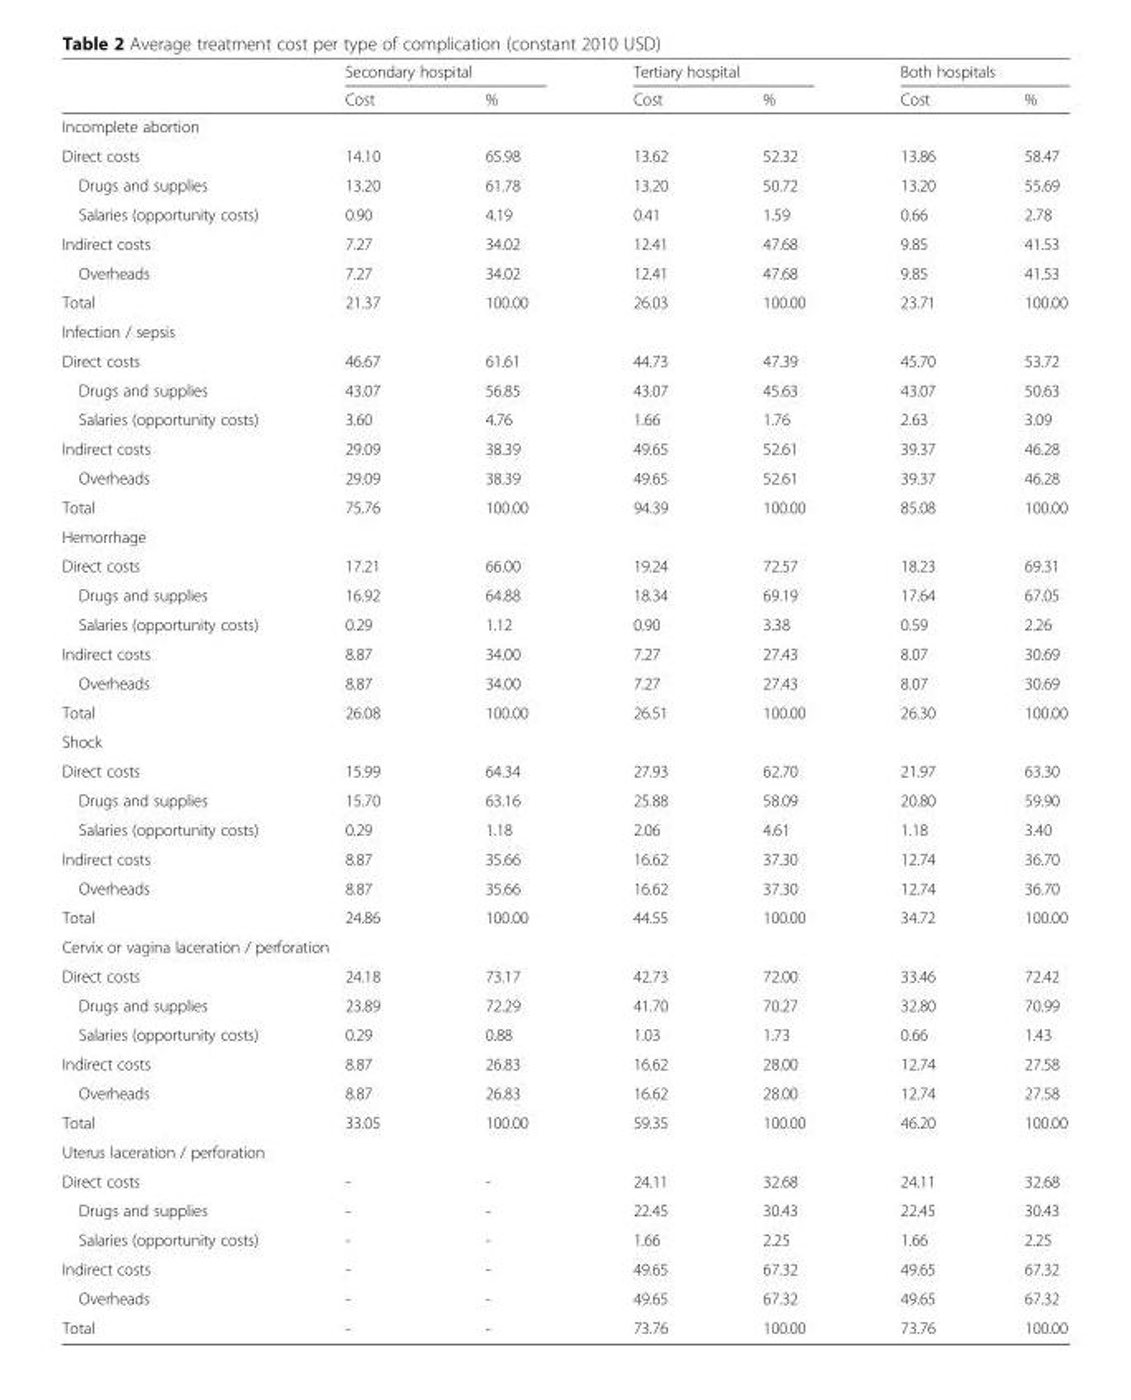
<table><thead><tr><td rowspan="2"></td><td colspan="2">Secondary hospital</td><td colspan="2">Tertiary hospital</td><td colspan="2">Both hospitals</td></tr><tr><td>Cost</td><td>%</td><td>Cost</td><td>%</td><td>Cost</td><td>%</td></tr></thead><tbody><tr><td colspan="7">Incomplete abortion</td></tr><tr><td>Direct costs</td><td>14.10</td><td>65.98</td><td>13.62</td><td>52.32</td><td>13.86</td><td>58.47</td></tr><tr><td>Drugs and supplies</td><td>13.20</td><td>61.78</td><td>13.20</td><td>50.72</td><td>13.20</td><td>55.69</td></tr><tr><td>Salaries (opportunity costs)</td><td>0.90</td><td>4.19</td><td>0.41</td><td>1.59</td><td>0.66</td><td>2.78</td></tr><tr><td>Indirect costs</td><td>7.27</td><td>34.02</td><td>12.41</td><td>47.68</td><td>9.85</td><td>41.53</td></tr><tr><td>Overheads</td><td>7.27</td><td>34.02</td><td>12.41</td><td>47.68</td><td>9.85</td><td>41.53</td></tr><tr><td>Total</td><td>21.37</td><td>100.00</td><td>26.03</td><td>100.00</td><td>23.71</td><td>100.00</td></tr><tr><td colspan="7">Infection / sepsis</td></tr><tr><td>Direct costs</td><td>46.67</td><td>61.61</td><td>44.73</td><td>47.39</td><td>45.70</td><td>53.72</td></tr><tr><td>Drugs and supplies</td><td>43.07</td><td>56.85</td><td>43.07</td><td>45.63</td><td>43.07</td><td>50.63</td></tr><tr><td>Salaries (opportunity costs)</td><td>3.60</td><td>4.76</td><td>1.66</td><td>1.76</td><td>2.63</td><td>3.09</td></tr><tr><td>Indirect costs</td><td>29.09</td><td>38.39</td><td>49.65</td><td>52.61</td><td>39.37</td><td>46.28</td></tr><tr><td>Overheads</td><td>29.09</td><td>38.39</td><td>49.65</td><td>52.61</td><td>39.37</td><td>46.28</td></tr><tr><td>Total</td><td>75.76</td><td>100.00</td><td>94.39</td><td>100.00</td><td>85.08</td><td>100.00</td></tr><tr><td colspan="7">Hemorrhage</td></tr><tr><td>Direct costs</td><td>17.21</td><td>66.00</td><td>19.24</td><td>72.57</td><td>18.23</td><td>69.31</td></tr><tr><td>Drugs and supplies</td><td>16.92</td><td>64.88</td><td>18.34</td><td>69.19</td><td>17.64</td><td>67.05</td></tr><tr><td>Salaries (opportunity costs)</td><td>0.29</td><td>1.12</td><td>0.90</td><td>3.38</td><td>0.59</td><td>2.26</td></tr><tr><td>Indirect costs</td><td>8.87</td><td>34.00</td><td>7.27</td><td>27.43</td><td>8.07</td><td>30.69</td></tr><tr><td>Overheads</td><td>8.87</td><td>34.00</td><td>7.27</td><td>27.43</td><td>8.07</td><td>30.69</td></tr><tr><td>Total</td><td>26.08</td><td>100.00</td><td>26.51</td><td>100.00</td><td>26.30</td><td>100.00</td></tr><tr><td colspan="7">Shock</td></tr><tr><td>Direct costs</td><td>15.99</td><td>64.34</td><td>27.93</td><td>62.70</td><td>21.97</td><td>63.30</td></tr><tr><td>Drugs and supplies</td><td>15.70</td><td>63.16</td><td>25.88</td><td>58.09</td><td>20.80</td><td>59.90</td></tr><tr><td>Salaries (opportunity costs)</td><td>0.29</td><td>1.18</td><td>2.06</td><td>4.61</td><td>1.18</td><td>3.40</td></tr><tr><td>Indirect costs</td><td>8.87</td><td>35.66</td><td>16.62</td><td>37.30</td><td>12.74</td><td>36.70</td></tr><tr><td>Overheads</td><td>8.87</td><td>35.66</td><td>16.62</td><td>37.30</td><td>12.74</td><td>36.70</td></tr><tr><td>Total</td><td>24.86</td><td>100.00</td><td>44.55</td><td>100.00</td><td>34.72</td><td>100.00</td></tr><tr><td colspan="7">Cervix or vagina laceration / perforation</td></tr><tr><td>Direct costs</td><td>24.18</td><td>73.17</td><td>42.73</td><td>72.00</td><td>33.46</td><td>72.42</td></tr><tr><td>Drugs and supplies</td><td>23.89</td><td>72.29</td><td>41.70</td><td>70.27</td><td>32.80</td><td>70.99</td></tr><tr><td>Salaries (opportunity costs)</td><td>0.29</td><td>0.88</td><td>1.03</td><td>1.73</td><td>0.66</td><td>1.43</td></tr><tr><td>Indirect costs</td><td>8.87</td><td>26.83</td><td>16.62</td><td>28.00</td><td>12.74</td><td>27.58</td></tr><tr><td>Overheads</td><td>8.87</td><td>26.83</td><td>16.62</td><td>28.00</td><td>12.74</td><td>27.58</td></tr><tr><td>Total</td><td>33.05</td><td>100.00</td><td>59.35</td><td>100.00</td><td>46.20</td><td>100.00</td></tr><tr><td colspan="7">Uterus laceration / perforation</td></tr><tr><td>Direct costs</td><td>-</td><td>-</td><td>24.11</td><td>32.68</td><td>24.11</td><td>32.68</td></tr><tr><td>Drugs and supplies</td><td>-</td><td>-</td><td>22.45</td><td>30.43</td><td>22.45</td><td>30.43</td></tr><tr><td>Salaries (opportunity costs)</td><td>-</td><td>-</td><td>1.66</td><td>2.25</td><td>1.66</td><td>2.25</td></tr><tr><td>Indirect costs</td><td>-</td><td>-</td><td>49.65</td><td>67.32</td><td>49.65</td><td>67.32</td></tr><tr><td>Overheads</td><td>-</td><td>-</td><td>49.65</td><td>67.32</td><td>49.65</td><td>67.32</td></tr><tr><td>Total</td><td>-</td><td>-</td><td>73.76</td><td>100.00</td><td>73.76</td><td>100.00</td></tr></tbody></table>